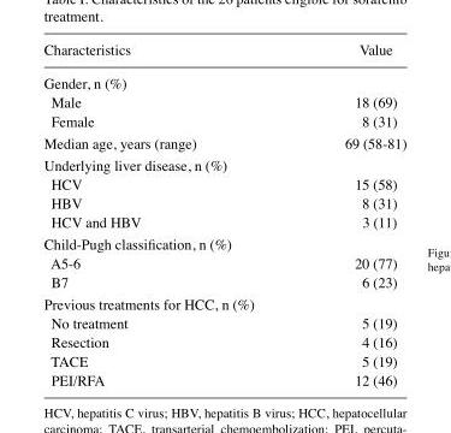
<table><thead><tr><td>Characteristics</td><td>Value</td></tr></thead><tbody><tr><td colspan="2">Gender, n (%)</td></tr><tr><td>Male</td><td>18 (69)</td></tr><tr><td>Female</td><td>8 (31)</td></tr><tr><td>Median age, years (range)</td><td>69 (58‑81)</td></tr><tr><td colspan="2">Underlying liver disease, n (%)</td></tr><tr><td>HCV</td><td>15 (58)</td></tr><tr><td>HBV</td><td>8 (31)</td></tr><tr><td>HCV and HBV</td><td>3 (11)</td></tr><tr><td colspan="2">Child‑Pugh classification, n (%)</td></tr><tr><td>A5‑6</td><td>20 (77)</td></tr><tr><td>B7</td><td>6 (23)</td></tr><tr><td colspan="2">Previous treatments for HCC, n (%)</td></tr><tr><td>No treatment</td><td>5 (19)</td></tr><tr><td>Resection</td><td>4 (16)</td></tr><tr><td>TACE</td><td>5 (19)</td></tr><tr><td>PEI/RFA</td><td>12 (46)</td></tr></tbody></table>